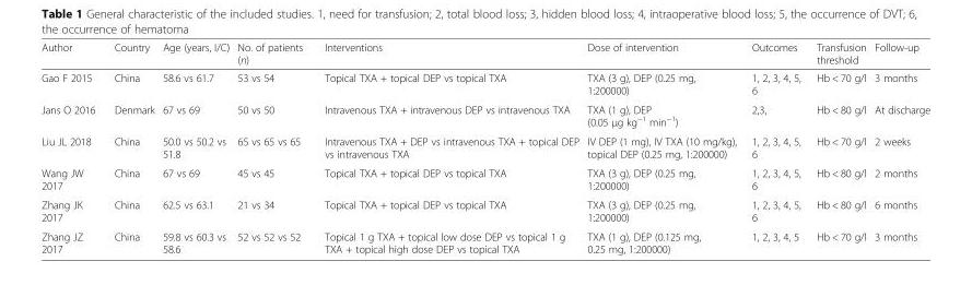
<table><thead><tr><td>Author</td><td>Country</td><td>Age (years, I/C)</td><td>No. of patients (n)</td><td>Interventions</td><td>Dose of intervention</td><td>Outcomes</td><td>Transfusion threshold</td><td>Follow-up</td></tr></thead><tbody><tr><td>Gao F 2015</td><td>China</td><td>58.6 vs 61.7</td><td>53 vs 54</td><td>Topical TXA + topical DEP vs topical TXA</td><td>TXA (3 g), DEP (0.25 mg, 1:200000)</td><td>1, 2, 3, 4, 5, 6</td><td>Hb &lt; 70 g/l</td><td>3 months</td></tr><tr><td>Jans O 2016</td><td>Denmark</td><td>67 vs 69</td><td>50 vs 50</td><td>Intravenous TXA + intravenous DEP vs intravenous TXA</td><td>TXA (1 g), DEP (0.05 μg kg<sup>−1</sup> min<sup>−1</sup>)</td><td>2,3,</td><td>Hb &lt; 80 g/l</td><td>At discharge</td></tr><tr><td>Liu JL 2018</td><td>China</td><td>50.0 vs 50.2 vs 51.8</td><td>65 vs 65 vs 65</td><td>Intravenous TXA + DEP vs intravenous TXA + topical DEP vs intravenous TXA</td><td>IV DEP (1 mg), IV TXA (10 mg/kg), topical DEP (0.25 mg, 1:200000)</td><td>1, 2, 3, 4, 5, 6</td><td>Hb &lt; 70 g/l</td><td>2 weeks</td></tr><tr><td>Wang JW 2017</td><td>China</td><td>67 vs 69</td><td>45 vs 45</td><td>Topical TXA + topical DEP vs topical TXA</td><td>TXA (3 g), DEP (0.25 mg, 1:200000)</td><td>1, 2, 3, 4, 5, 6</td><td>Hb &lt; 80 g/l</td><td>2 months</td></tr><tr><td>Zhang JK 2017</td><td>China</td><td>62.5 vs 63.1</td><td>21 vs 34</td><td>Topical TXA + topical DEP vs topical TXA</td><td>TXA (3 g), DEP (0.25 mg, 1:200000)</td><td>1, 2, 3, 4, 5, 6</td><td>Hb &lt; 80 g/l</td><td>6 months</td></tr><tr><td>Zhang JZ 2017</td><td>China</td><td>59.8 vs 60.3 vs 58.6</td><td>52 vs 52 vs 52</td><td>Topical 1 g TXA + topical low dose DEP vs topical 1 g TXA + topical high dose DEP vs topical TXA</td><td>TXA (1 g), DEP (0.125 mg, 0.25 mg, 1:200000)</td><td>1, 2, 3, 4, 5</td><td>Hb &lt; 70 g/l</td><td>3 months</td></tr></tbody></table>